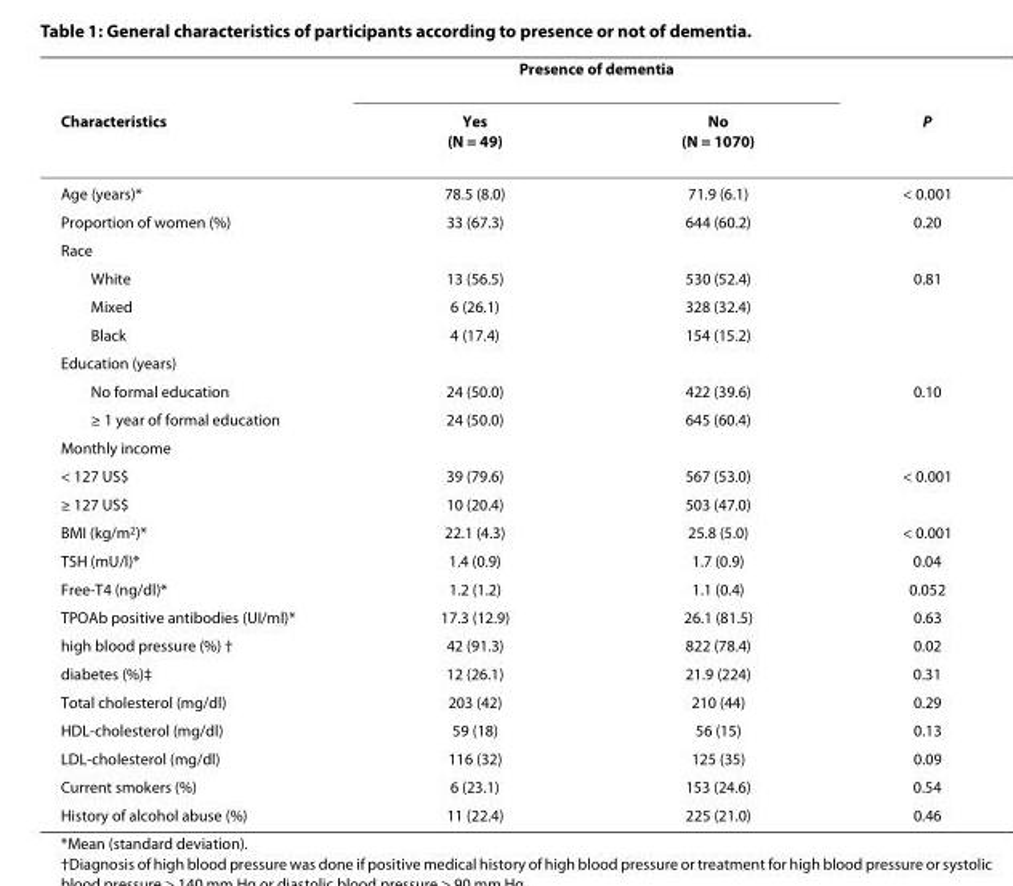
<table><thead><tr><td rowspan="2">Characteristics</td><td colspan="2">Presence of dementia</td><td rowspan="2">P</td></tr><tr><td>Yes (N = 49)</td><td>No (N = 1070)</td></tr></thead><tbody><tr><td>Age (years)*</td><td>78.5 (8.0)</td><td>71.9 (6.1)</td><td>&lt; 0.001</td></tr><tr><td>Proportion of women (%)</td><td>33 (67.3)</td><td>644 (60.2)</td><td>0.20</td></tr><tr><td colspan="4">Race</td></tr><tr><td>White</td><td>13 (56.5)</td><td>530 (52.4)</td><td>0.81</td></tr><tr><td>Mixed</td><td>6 (26.1)</td><td>328 (32.4)</td><td></td></tr><tr><td>Black</td><td>4 (17.4)</td><td>154 (15.2)</td><td></td></tr><tr><td colspan="4">Education (years)</td></tr><tr><td>No formal education</td><td>24 (50.0)</td><td>422 (39.6)</td><td>0.10</td></tr><tr><td>≥ 1 year of formal education</td><td>24 (50.0)</td><td>645 (60.4)</td><td></td></tr><tr><td colspan="4">Monthly income</td></tr><tr><td>&lt; 127 US$</td><td>39 (79.6)</td><td>567 (53.0)</td><td>&lt; 0.001</td></tr><tr><td>≥ 127 US$</td><td>10 (20.4)</td><td>503 (47.0)</td><td></td></tr><tr><td>BMI (kg/m<sup>2</sup>)*</td><td>22.1 (4.3)</td><td>25.8 (5.0)</td><td>&lt; 0.001</td></tr><tr><td>TSH (mU/l)*</td><td>1.4 (0.9)</td><td>1.7 (0.9)</td><td>0.04</td></tr><tr><td>Free-T4 (ng/dl)*</td><td>1.2 (1.2)</td><td>1.1 (0.4)</td><td>0.052</td></tr><tr><td>TPOAb positive antibodies (UI/ml)*</td><td>17.3 (12.9)</td><td>26.1 (81.5)</td><td>0.63</td></tr><tr><td>high blood pressure (%) †</td><td>42 (91.3)</td><td>822 (78.4)</td><td>0.02</td></tr><tr><td>diabetes (%)‡</td><td>12 (26.1)</td><td>21.9 (224)</td><td>0.31</td></tr><tr><td>Total cholesterol (mg/dl)</td><td>203 (42)</td><td>210 (44)</td><td>0.29</td></tr><tr><td>HDL-cholesterol (mg/dl)</td><td>59 (18)</td><td>56 (15)</td><td>0.13</td></tr><tr><td>LDL-cholesterol (mg/dl)</td><td>116 (32)</td><td>125 (35)</td><td>0.09</td></tr><tr><td>Current smokers (%)</td><td>6 (23.1)</td><td>153 (24.6)</td><td>0.54</td></tr><tr><td>History of alcohol abuse (%)</td><td>11 (22.4)</td><td>225 (21.0)</td><td>0.46</td></tr></tbody></table>